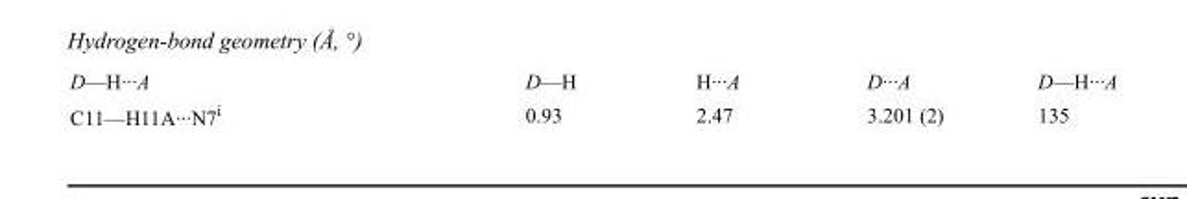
<table><tbody><tr><td>D—H···A</td><td>D—H</td><td>H···A</td><td>D···A</td><td>D—H···A</td></tr><tr><td>C11—H11A···N7<sup>i</sup></td><td>0.93</td><td>2.47</td><td>3.201 (2)</td><td>135</td></tr></tbody></table>